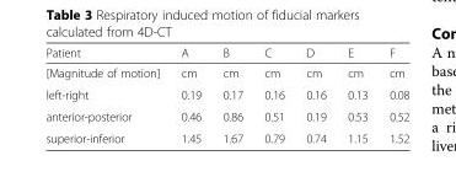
<table><thead><tr><td>Patient</td><td>A</td><td>B</td><td>C</td><td>D</td><td>E</td><td>F</td></tr></thead><tbody><tr><td>[Magnitude of motion]</td><td>cm</td><td>cm</td><td>cm</td><td>cm</td><td>cm</td><td>cm</td></tr><tr><td>left-right</td><td>0.19</td><td>0.17</td><td>0.16</td><td>0.16</td><td>0.13</td><td>0.08</td></tr><tr><td>anterior-posterior</td><td>0.46</td><td>0.86</td><td>0.51</td><td>0.19</td><td>0.53</td><td>0.52</td></tr><tr><td>superior-inferior</td><td>1.45</td><td>1.67</td><td>0.79</td><td>0.74</td><td>1.15</td><td>1.52</td></tr></tbody></table>